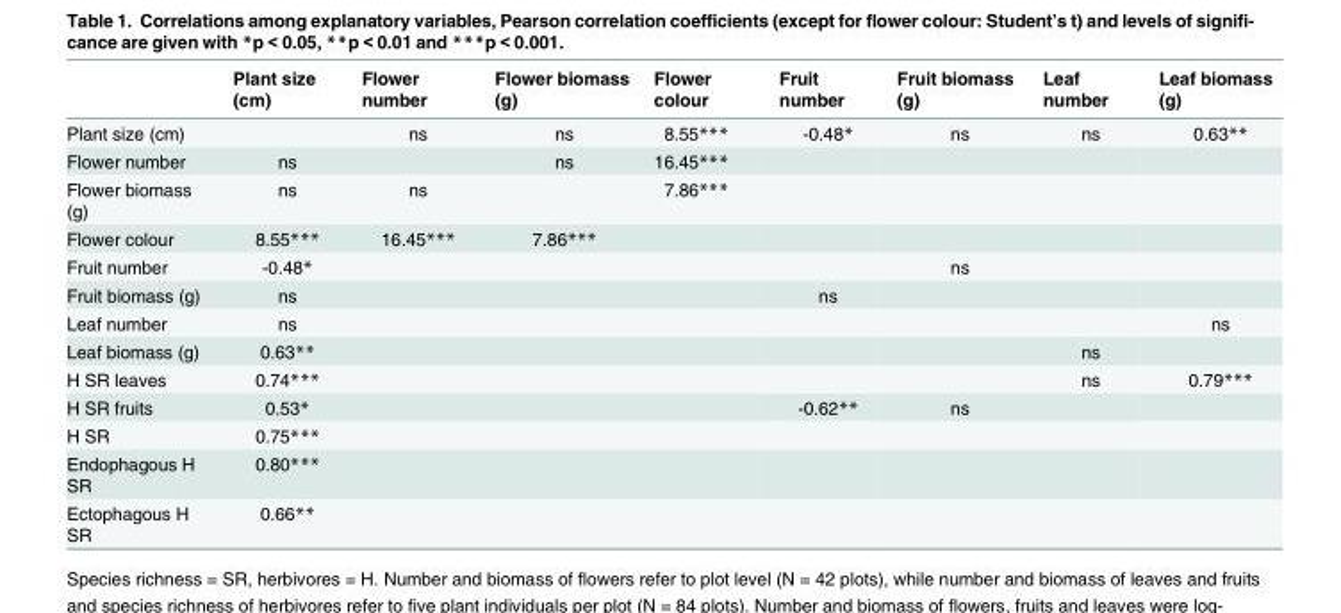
<table><thead><tr><td></td><td>Plant size (cm)</td><td>Flower number</td><td>Flower biomass (g)</td><td>Flower colour</td><td>Fruit number</td><td>Fruit biomass (g)</td><td>Leaf number</td><td>Leaf biomass (g)</td></tr></thead><tbody><tr><td>Plant size (cm)</td><td></td><td>ns</td><td>ns</td><td>8.55***</td><td>-0.48*</td><td>ns</td><td>ns</td><td>0.63**</td></tr><tr><td>Flower number</td><td>ns</td><td></td><td>ns</td><td>16.45***</td><td></td><td></td><td></td><td></td></tr><tr><td>Flower biomass (g)</td><td>ns</td><td>ns</td><td></td><td>7.86***</td><td></td><td></td><td></td><td></td></tr><tr><td>Flower colour</td><td>8.55***</td><td>16.45***</td><td>7.86***</td><td></td><td></td><td></td><td></td><td></td></tr><tr><td>Fruit number</td><td>-0.48*</td><td></td><td></td><td></td><td></td><td>ns</td><td></td><td></td></tr><tr><td>Fruit biomass (g)</td><td>ns</td><td></td><td></td><td></td><td>ns</td><td></td><td></td><td></td></tr><tr><td>Leaf number</td><td>ns</td><td></td><td></td><td></td><td></td><td></td><td></td><td>ns</td></tr><tr><td>Leaf biomass (g)</td><td>0.63**</td><td></td><td></td><td></td><td></td><td></td><td>ns</td><td></td></tr><tr><td>H SR leaves</td><td>0.74***</td><td></td><td></td><td></td><td></td><td></td><td>ns</td><td>0.79***</td></tr><tr><td>H SR fruits</td><td>0.53*</td><td></td><td></td><td></td><td>-0.62**</td><td>ns</td><td></td><td></td></tr><tr><td>H SR</td><td>0.75***</td><td></td><td></td><td></td><td></td><td></td><td></td><td></td></tr><tr><td>Endophagous H SR</td><td>0.80***</td><td></td><td></td><td></td><td></td><td></td><td></td><td></td></tr><tr><td>Ectophagous H SR</td><td>0.66**</td><td></td><td></td><td></td><td></td><td></td><td></td><td></td></tr></tbody></table>